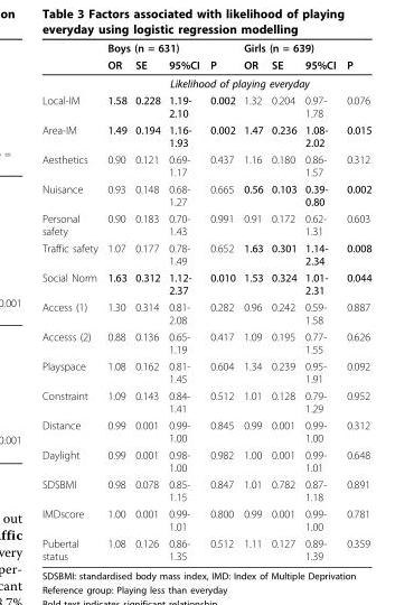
<table><thead><tr><td rowspan="2"></td><td colspan="3">Boys (n = 631)</td><td rowspan="2">P</td><td colspan="3">Girls (n = 639)</td><td rowspan="2">P</td></tr><tr><td>OR</td><td>SE</td><td>95%CI</td><td>OR</td><td>SE</td><td>95%CI</td></tr></thead><tbody><tr><td></td><td colspan="8">Likelihood of playing everyday</td></tr><tr><td>Local-IM</td><td>1.58</td><td>0.228</td><td>1.19- 2.10</td><td>0.002</td><td>1.32</td><td>0.204</td><td>0.97- 1.78</td><td>0.076</td></tr><tr><td>Area-IM</td><td>1.49</td><td>0.194</td><td>1.16- 1.93</td><td>0.002</td><td>1.47</td><td>0.236</td><td>1.08- 2.02</td><td>0.015</td></tr><tr><td>Aesthetics</td><td>0.90</td><td>0.121</td><td>0.69- 1.17</td><td>0.437</td><td>1.16</td><td>0.180</td><td>0.86- 1.57</td><td>0.312</td></tr><tr><td>Nuisance</td><td>0.93</td><td>0.148</td><td>0.68- 1.27</td><td>0.665</td><td>0.56</td><td>0.103</td><td>0.39- 0.80</td><td>0.002</td></tr><tr><td>Personal safety</td><td>0.90</td><td>0.183</td><td>0.70- 1.43</td><td>0.991</td><td>0.91</td><td>0.172</td><td>0.62- 1.31</td><td>0.603</td></tr><tr><td>Traffic safety</td><td>1.07</td><td>0.177</td><td>0.78- 1.49</td><td>0.652</td><td>1.63</td><td>0.301</td><td>1.14- 2.34</td><td>0.008</td></tr><tr><td>Social Norm</td><td>1.63</td><td>0.312</td><td>1.12- 2.37</td><td>0.010</td><td>1.53</td><td>0.324</td><td>1.01- 2.31</td><td>0.044</td></tr><tr><td>Access (1)</td><td>1.30</td><td>0.314</td><td>0.81- 2.08</td><td>0.282</td><td>0.96</td><td>0.242</td><td>0.59- 1.58</td><td>0.887</td></tr><tr><td>Accesss (2)</td><td>0.88</td><td>0.136</td><td>0.65- 1.19</td><td>0.417</td><td>1.09</td><td>0.195</td><td>0.77- 1.55</td><td>0.626</td></tr><tr><td>Playspace</td><td>1.08</td><td>0.162</td><td>0.81- 1.45</td><td>0.604</td><td>1.34</td><td>0.239</td><td>0.95- 1.91</td><td>0.092</td></tr><tr><td>Constraint</td><td>1.09</td><td>0.143</td><td>0.84- 1.41</td><td>0.512</td><td>1.01</td><td>0.128</td><td>0.79- 1.29</td><td>0.952</td></tr><tr><td>Distance</td><td>0.99</td><td>0.001</td><td>0.99- 1.00</td><td>0.845</td><td>0.99</td><td>0.001</td><td>0.99- 1.00</td><td>0.312</td></tr><tr><td>Daylight</td><td>0.99</td><td>0.001</td><td>0.98- 1.00</td><td>0.982</td><td>1.00</td><td>0.001</td><td>0.99- 1.01</td><td>0.648</td></tr><tr><td>SDSBMI</td><td>0.98</td><td>0.078</td><td>0.85- 1.15</td><td>0.847</td><td>1.01</td><td>0.782</td><td>0.87- 1.18</td><td>0.891</td></tr><tr><td>IMDscore</td><td>1.00</td><td>0.001</td><td>0.99- 1.01</td><td>0.800</td><td>0.99</td><td>0.001</td><td>0.99- 1.00</td><td>0.781</td></tr><tr><td>Pubertal status</td><td>1.08</td><td>0.126</td><td>0.86- 1.35</td><td>0.512</td><td>1.11</td><td>0.127</td><td>0.89- 1.39</td><td>0.359</td></tr></tbody></table>